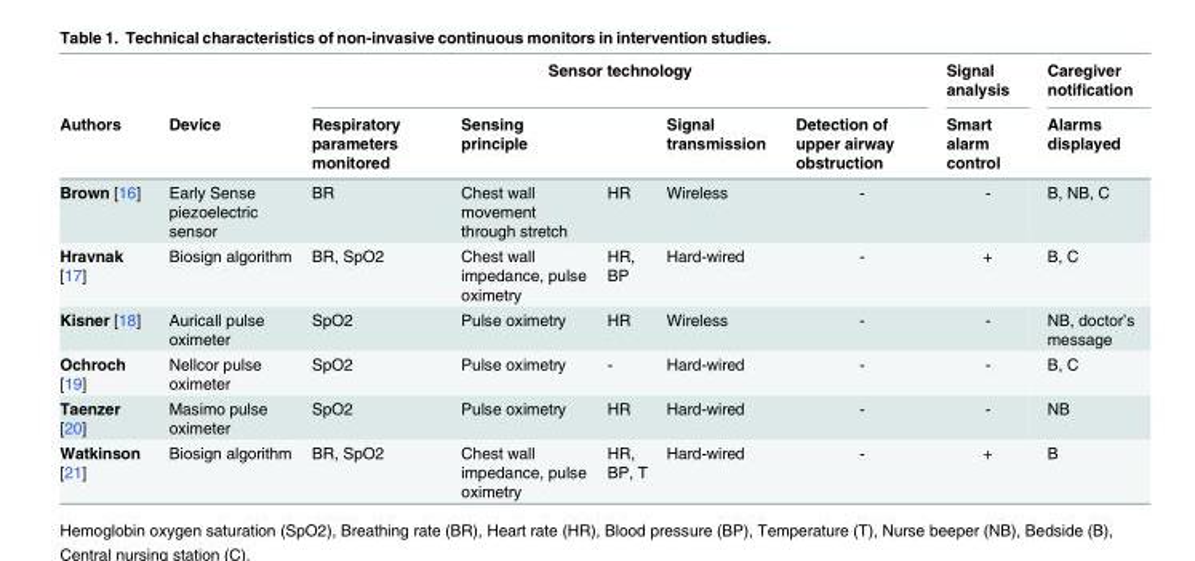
<table><thead><tr><td rowspan="2">Authors</td><td rowspan="2">Device</td><td colspan="5">Sensor technology</td><td rowspan="2">Signal analysis Smart alarm control</td><td rowspan="2">Caregiver notification Alarms displayed</td></tr><tr><td>Respiratory parameters monitored</td><td>Sensing principle</td><td></td><td>Signal transmission</td><td>Detection of upper airway obstruction</td></tr></thead><tbody><tr><td>Brown [16]</td><td>Early Sense piezoelectric sensor</td><td>BR</td><td>Chest wall movement through stretch</td><td>HR</td><td>Wireless</td><td>-</td><td>-</td><td>B, NB, C</td></tr><tr><td>Hravnak [17]</td><td>Biosign algorithm</td><td>BR, SpO2</td><td>Chest wall impedance, pulse oximetry</td><td>HR, BP</td><td>Hard-wired</td><td>-</td><td>+</td><td>B, C</td></tr><tr><td>Kisner [18]</td><td>Auricall pulse oximeter</td><td>SpO2</td><td>Pulse oximetry</td><td>HR</td><td>Wireless</td><td>-</td><td>-</td><td>NB, doctor’s message</td></tr><tr><td>Ochroch [19]</td><td>Nellcor pulse oximeter</td><td>SpO2</td><td>Pulse oximetry</td><td>-</td><td>Hard-wired</td><td>-</td><td>-</td><td>B, C</td></tr><tr><td>Taenzer [20]</td><td>Masimo pulse oximeter</td><td>SpO2</td><td>Pulse oximetry</td><td>HR</td><td>Hard-wired</td><td>-</td><td>-</td><td>NB</td></tr><tr><td>Watkinson [21]</td><td>Biosign algorithm</td><td>BR, SpO2</td><td>Chest wall impedance, pulse oximetry</td><td>HR, BP, T</td><td>Hard-wired</td><td>-</td><td>+</td><td>B</td></tr></tbody></table>